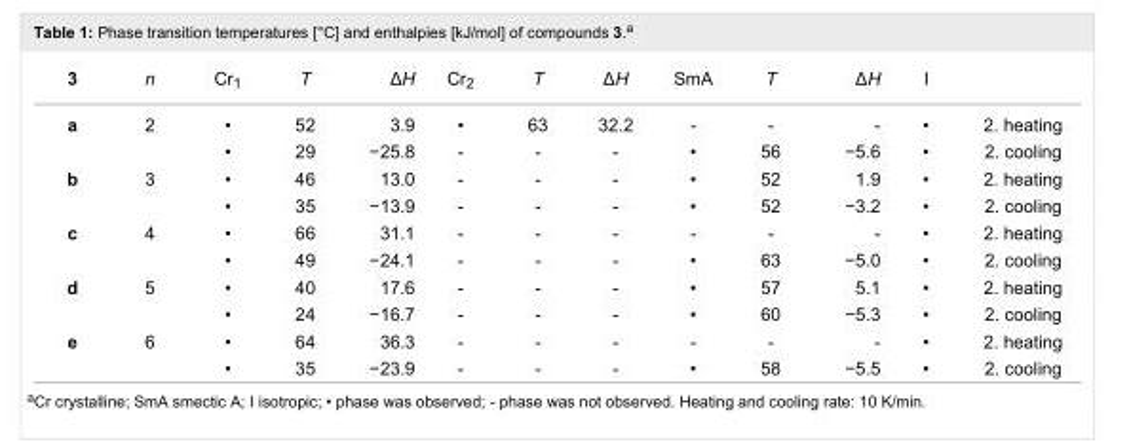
<table><tbody><tr><td>3</td><td>n</td><td>Cr<sub>1</sub></td><td>T</td><td>ΔH</td><td>Cr<sub>2</sub></td><td>T</td><td>ΔH</td><td>SmA</td><td>T</td><td>ΔH</td><td>I</td><td></td></tr><tr><td rowspan="2">a</td><td>2</td><td>•</td><td>52</td><td>3.9</td><td>•</td><td>63</td><td>32.2</td><td>-</td><td>-</td><td>-</td><td>•</td><td>2. heating</td></tr><tr><td></td><td>•</td><td>29</td><td>−25.8</td><td>-</td><td>-</td><td>-</td><td>•</td><td>56</td><td>−5.6</td><td>•</td><td>2. cooling</td></tr><tr><td rowspan="2">b</td><td>3</td><td>•</td><td>46</td><td>13.0</td><td>-</td><td>-</td><td>-</td><td>•</td><td>52</td><td>1.9</td><td>•</td><td>2. heating</td></tr><tr><td></td><td>•</td><td>35</td><td>−13.9</td><td>-</td><td>-</td><td>-</td><td>•</td><td>52</td><td>−3.2</td><td>•</td><td>2. cooling</td></tr><tr><td rowspan="2">c</td><td>4</td><td>•</td><td>66</td><td>31.1</td><td>-</td><td>-</td><td>-</td><td>-</td><td>-</td><td>-</td><td>•</td><td>2. heating</td></tr><tr><td></td><td>•</td><td>49</td><td>−24.1</td><td>-</td><td>-</td><td>-</td><td>•</td><td>63</td><td>−5.0</td><td>•</td><td>2. cooling</td></tr><tr><td rowspan="2">d</td><td>5</td><td>•</td><td>40</td><td>17.6</td><td>-</td><td>-</td><td>-</td><td>•</td><td>57</td><td>5.1</td><td>•</td><td>2. heating</td></tr><tr><td></td><td>•</td><td>24</td><td>−16.7</td><td>-</td><td>-</td><td>-</td><td>•</td><td>60</td><td>−5.3</td><td>•</td><td>2. cooling</td></tr><tr><td rowspan="2">e</td><td>6</td><td>•</td><td>64</td><td>36.3</td><td>-</td><td>-</td><td>-</td><td>-</td><td>-</td><td>-</td><td>•</td><td>2. heating</td></tr><tr><td></td><td>•</td><td>35</td><td>−23.9</td><td>-</td><td>-</td><td>-</td><td>•</td><td>58</td><td>−5.5</td><td>•</td><td>2. cooling</td></tr></tbody></table>